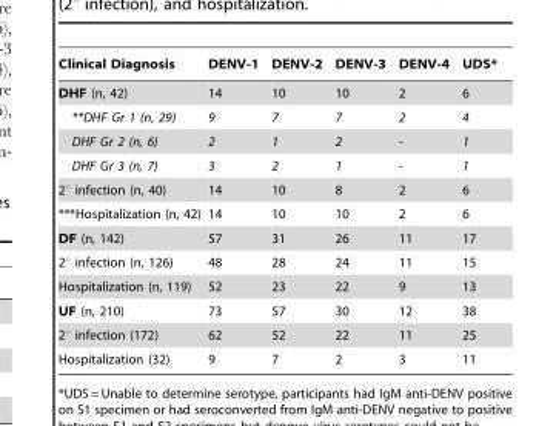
<table><thead><tr><td>Clinical Diagnosis</td><td>DENV-1</td><td>DENV-2</td><td>DENV-3</td><td>DENV-4</td><td>UDS*</td></tr></thead><tbody><tr><td>DHF (n, 42)</td><td>14</td><td>10</td><td>10</td><td>2</td><td>6</td></tr><tr><td>**DHF Gr 1 (n, 29)</td><td>9</td><td>7</td><td>7</td><td>2</td><td>4</td></tr><tr><td>DHF Gr 2 (n, 6)</td><td>2</td><td>1</td><td>2</td><td>-</td><td>1</td></tr><tr><td>DHF Gr 3 (n, 7)</td><td>3</td><td>2</td><td>1</td><td>-</td><td>1</td></tr><tr><td>2° infection (n, 40)</td><td>14</td><td>10</td><td>8</td><td>2</td><td>6</td></tr><tr><td>***Hospitalization (n, 42)</td><td>14</td><td>10</td><td>10</td><td>2</td><td>6</td></tr><tr><td>DF (n, 142)</td><td>57</td><td>31</td><td>26</td><td>11</td><td>17</td></tr><tr><td>2° infection (n, 126)</td><td>48</td><td>28</td><td>24</td><td>11</td><td>15</td></tr><tr><td>Hospitalization (n, 119)</td><td>52</td><td>23</td><td>22</td><td>9</td><td>13</td></tr><tr><td>UF (n, 210)</td><td>73</td><td>57</td><td>30</td><td>12</td><td>38</td></tr><tr><td>2° infection (172)</td><td>62</td><td>52</td><td>22</td><td>11</td><td>25</td></tr><tr><td>Hospitalization (32)</td><td>9</td><td>7</td><td>2</td><td>3</td><td>11</td></tr></tbody></table>